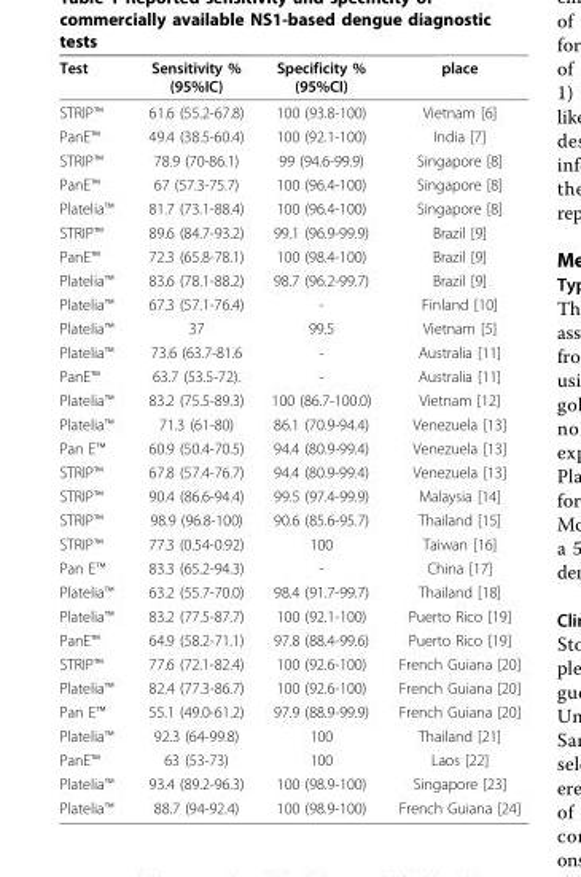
<table><thead><tr><td>Test</td><td>Sensitivity % (95%IC)</td><td>Specificity % (95%CI)</td><td>place</td></tr></thead><tbody><tr><td>STRIP™</td><td>61.6 (55.2-67.8)</td><td>100 (93.8-100)</td><td>Vietnam [6]</td></tr><tr><td>PanE™</td><td>49.4 (38.5-60.4)</td><td>100 (92.1-100)</td><td>India [7]</td></tr><tr><td>STRIP™</td><td>78.9 (70-86.1)</td><td>99 (94.6-99.9)</td><td>Singapore [8]</td></tr><tr><td>PanE™</td><td>67 (57.3-75.7)</td><td>100 (96.4-100)</td><td>Singapore [8]</td></tr><tr><td>Platelia™</td><td>81.7 (73.1-88.4)</td><td>100 (96.4-100)</td><td>Singapore [8]</td></tr><tr><td>STRIP™</td><td>89.6 (84.7-93.2)</td><td>99.1 (96.9-99.9)</td><td>Brazil [9]</td></tr><tr><td>PanE™</td><td>72.3 (65.8-78.1)</td><td>100 (98.4-100)</td><td>Brazil [9]</td></tr><tr><td>Platelia™</td><td>83.6 (78.1-88.2)</td><td>98.7 (96.2-99.7)</td><td>Brazil [9]</td></tr><tr><td>Platelia™</td><td>67.3 (57.1-76.4)</td><td>-</td><td>Finland [10]</td></tr><tr><td>Platelia™</td><td>37</td><td>99.5</td><td>Vietnam [5]</td></tr><tr><td>Platelia™</td><td>73.6 (63.7-81.6</td><td>-</td><td>Australia [11]</td></tr><tr><td>PanE™</td><td>63.7 (53.5-72).</td><td>-</td><td>Australia [11]</td></tr><tr><td>Platelia™</td><td>83.2 (75.5-89.3)</td><td>100 (86.7-100.0)</td><td>Vietnam [12]</td></tr><tr><td>Platelia™</td><td>71.3 (61-80)</td><td>86.1 (70.9-94.4)</td><td>Venezuela [13]</td></tr><tr><td>Pan E™</td><td>60.9 (50.4-70.5)</td><td>94.4 (80.9-99.4)</td><td>Venezuela [13]</td></tr><tr><td>STRIP™</td><td>67.8 (57.4-76.7)</td><td>94.4 (80.9-99.4)</td><td>Venezuela [13]</td></tr><tr><td>STRIP™</td><td>90.4 (86.6-94.4)</td><td>99.5 (97.4-99.9)</td><td>Malaysia [14]</td></tr><tr><td>STRIP™</td><td>98.9 (96.8-100)</td><td>90.6 (85.6-95.7)</td><td>Thailand [15]</td></tr><tr><td>STRIP™</td><td>77.3 (0.54-0.92)</td><td>100</td><td>Taiwan [16]</td></tr><tr><td>Pan E™</td><td>83.3 (65.2-94.3)</td><td>-</td><td>China [17]</td></tr><tr><td>Platelia™</td><td>63.2 (55.7-70.0)</td><td>98.4 (91.7-99.7)</td><td>Thailand [18]</td></tr><tr><td>Platelia™</td><td>83.2 (77.5-87.7)</td><td>100 (92.1-100)</td><td>Puerto Rico [19]</td></tr><tr><td>PanE™</td><td>64.9 (58.2-71.1)</td><td>97.8 (88.4-99.6)</td><td>Puerto Rico [19]</td></tr><tr><td>STRIP™</td><td>77.6 (72.1-82.4)</td><td>100 (92.6-100)</td><td>French Guiana [20]</td></tr><tr><td>Platelia™</td><td>82.4 (77.3-86.7)</td><td>100 (92.6-100)</td><td>French Guiana [20]</td></tr><tr><td>Pan E™</td><td>55.1 (49.0-61.2)</td><td>97.9 (88.9-99.9)</td><td>French Guiana [20]</td></tr><tr><td>Platelia™</td><td>92.3 (64-99.8)</td><td>100</td><td>Thailand [21]</td></tr><tr><td>PanE™</td><td>63 (53-73)</td><td>100</td><td>Laos [22]</td></tr><tr><td>Platelia™</td><td>93.4 (89.2-96.3)</td><td>100 (98.9-100)</td><td>Singapore [23]</td></tr><tr><td>Platelia™</td><td>88.7 (94-92.4)</td><td>100 (98.9-100)</td><td>French Guiana [24]</td></tr></tbody></table>